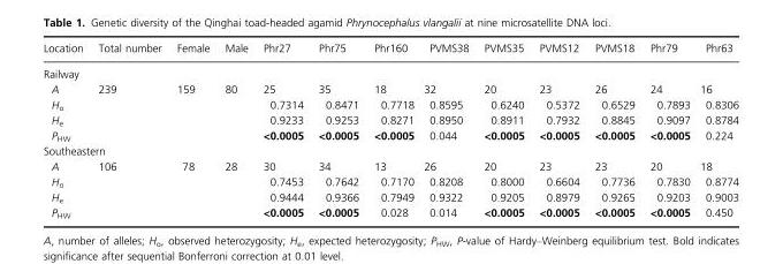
<table><thead><tr><td>Location</td><td>Total number</td><td>Female</td><td>Male</td><td>Phr27</td><td>Phr75</td><td>Phr160</td><td>PVMS38</td><td>PVMS35</td><td>PVMS12</td><td>PVMS18</td><td>Phr79</td><td>Phr63</td></tr></thead><tbody><tr><td colspan="13">Railway</td></tr><tr><td>A</td><td rowspan="4">239</td><td rowspan="4">159</td><td rowspan="4">80</td><td>25</td><td>35</td><td>18</td><td>32</td><td>20</td><td>23</td><td>26</td><td>24</td><td>16</td></tr><tr><td>H<sub>o</sub></td><td>0.7314</td><td>0.8471</td><td>0.7718</td><td>0.8595</td><td>0.6240</td><td>0.5372</td><td>0.6529</td><td>0.7893</td><td>0.8306</td></tr><tr><td>H<sub>e</sub></td><td>0.9233</td><td>0.9253</td><td>0.8271</td><td>0.8950</td><td>0.8911</td><td>0.7932</td><td>0.8845</td><td>0.9097</td><td>0.8784</td></tr><tr><td>P<sub>HW</sub></td><td>&lt;0.0005</td><td>&lt;0.0005</td><td>&lt;0.0005</td><td>0.044</td><td>&lt;0.0005</td><td>&lt;0.0005</td><td>&lt;0.0005</td><td>&lt;0.0005</td><td>0.224</td></tr><tr><td colspan="13">Southeastern</td></tr><tr><td>A</td><td rowspan="4">106</td><td rowspan="4">78</td><td rowspan="4">28</td><td>30</td><td>34</td><td>13</td><td>26</td><td>20</td><td>23</td><td>23</td><td>20</td><td>18</td></tr><tr><td>H<sub>o</sub></td><td>0.7453</td><td>0.7642</td><td>0.7170</td><td>0.8208</td><td>0.8000</td><td>0.6604</td><td>0.7736</td><td>0.7830</td><td>0.8774</td></tr><tr><td>H<sub>e</sub></td><td>0.9444</td><td>0.9366</td><td>0.7949</td><td>0.9322</td><td>0.9205</td><td>0.8979</td><td>0.9265</td><td>0.9203</td><td>0.9003</td></tr><tr><td>P<sub>HW</sub></td><td>&lt;0.0005</td><td>&lt;0.0005</td><td>0.028</td><td>0.014</td><td>&lt;0.0005</td><td>&lt;0.0005</td><td>&lt;0.0005</td><td>&lt;0.0005</td><td>0.450</td></tr></tbody></table>